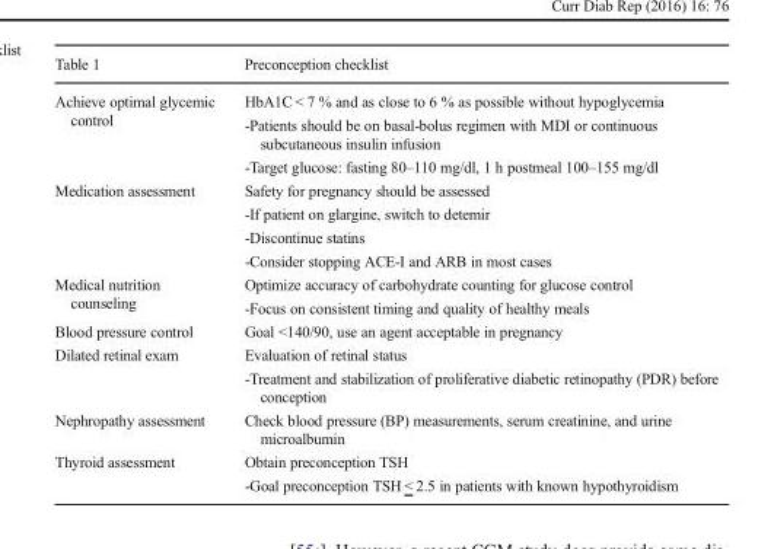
<table><thead><tr><td>Table 1</td><td>Preconception checklist</td></tr></thead><tbody><tr><td>Achieve optimal glycemic control</td><td>HbA1C &lt; 7 % and as close to 6 % as possible without hypoglycemia -Patients should be on basal-bolus regimen with MDI or continuous subcutaneous insulin infusion -Target glucose: fasting 80–110 mg/dl, 1 h postmeal 100–155 mg/dl</td></tr><tr><td>Medication assessment</td><td>Safety for pregnancy should be assessed -If patient on glargine, switch to detemir -Discontinue statins -Consider stopping ACE-I and ARB in most cases</td></tr><tr><td>Medical nutrition counseling</td><td>Optimize accuracy of carbohydrate counting for glucose control -Focus on consistent timing and quality of healthy meals</td></tr><tr><td>Blood pressure control</td><td>Goal &lt;140/90, use an agent acceptable in pregnancy</td></tr><tr><td>Dilated retinal exam</td><td>Evaluation of retinal status -Treatment and stabilization of proliferative diabetic retinopathy (PDR) before conception</td></tr><tr><td>Nephropathy assessment</td><td>Check blood pressure (BP) measurements, serum creatinine, and urine microalbumin</td></tr><tr><td>Thyroid assessment</td><td>Obtain preconception TSH -Goal preconception TSH &lt; 2.5 in patients with known hypothyroidism</td></tr></tbody></table>